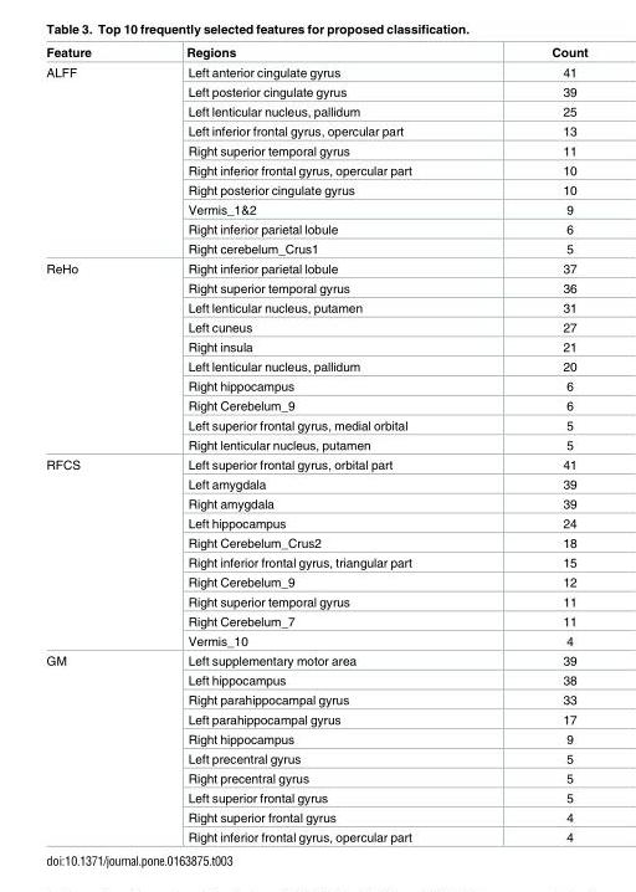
<table><thead><tr><td>Feature</td><td>Regions</td><td>Count</td></tr></thead><tbody><tr><td rowspan="10">ALFF</td><td>Left anterior cingulate gyrus</td><td>41</td></tr><tr><td>Left posterior cingulate gyrus</td><td>39</td></tr><tr><td>Left lenticular nucleus, pallidum</td><td>25</td></tr><tr><td>Left inferior frontal gyrus, opercular part</td><td>13</td></tr><tr><td>Right superior temporal gyrus</td><td>11</td></tr><tr><td>Right inferior frontal gyrus, opercular part</td><td>10</td></tr><tr><td>Right posterior cingulate gyrus</td><td>10</td></tr><tr><td>Vermis_1&amp;2</td><td>9</td></tr><tr><td>Right inferior parietal lobule</td><td>6</td></tr><tr><td>Right cerebelum_Crus1</td><td>5</td></tr><tr><td rowspan="10">ReHo</td><td>Right inferior parietal lobule</td><td>37</td></tr><tr><td>Right superior temporal gyrus</td><td>36</td></tr><tr><td>Left lenticular nucleus, putamen</td><td>31</td></tr><tr><td>Left cuneus</td><td>27</td></tr><tr><td>Right insula</td><td>21</td></tr><tr><td>Left lenticular nucleus, pallidum</td><td>20</td></tr><tr><td>Right hippocampus</td><td>6</td></tr><tr><td>Right Cerebelum_9</td><td>6</td></tr><tr><td>Left superior frontal gyrus, medial orbital</td><td>5</td></tr><tr><td>Right lenticular nucleus, putamen</td><td>5</td></tr><tr><td rowspan="10">RFCS</td><td>Left superior frontal gyrus, orbital part</td><td>41</td></tr><tr><td>Left amygdala</td><td>39</td></tr><tr><td>Right amygdala</td><td>39</td></tr><tr><td>Left hippocampus</td><td>24</td></tr><tr><td>Right Cerebelum_Crus2</td><td>18</td></tr><tr><td>Right inferior frontal gyrus, triangular part</td><td>15</td></tr><tr><td>Right Cerebelum_9</td><td>12</td></tr><tr><td>Right superior temporal gyrus</td><td>11</td></tr><tr><td>Right Cerebelum_7</td><td>11</td></tr><tr><td>Vermis_10</td><td>4</td></tr><tr><td rowspan="10">GM</td><td>Left supplementary motor area</td><td>39</td></tr><tr><td>Left hippocampus</td><td>38</td></tr><tr><td>Right parahippocampal gyrus</td><td>33</td></tr><tr><td>Left parahippocampal gyrus</td><td>17</td></tr><tr><td>Right hippocampus</td><td>9</td></tr><tr><td>Left precentral gyrus</td><td>5</td></tr><tr><td>Right precentral gyrus</td><td>5</td></tr><tr><td>Left superior frontal gyrus</td><td>5</td></tr><tr><td>Right superior frontal gyrus</td><td>4</td></tr><tr><td>Right inferior frontal gyrus, opercular part</td><td>4</td></tr></tbody></table>